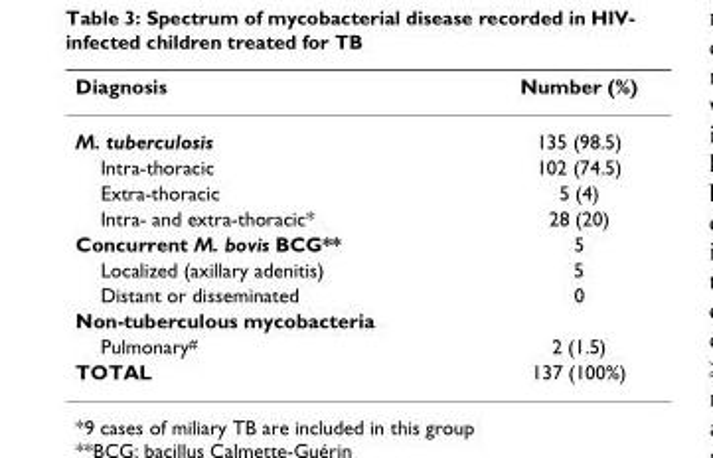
<table><thead><tr><td>Diagnosis</td><td>Number (%)</td></tr></thead><tbody><tr><td>M. tuberculosis</td><td>135 (98.5)</td></tr><tr><td>Intra-thoracic</td><td>102 (74.5)</td></tr><tr><td>Extra-thoracic</td><td>5 (4)</td></tr><tr><td>Intra- and extra-thoracic*</td><td>28 (20)</td></tr><tr><td>Concurrent M. bovis BCG**</td><td>5</td></tr><tr><td>Localized (axillary adenitis)</td><td>5</td></tr><tr><td>Distant or disseminated</td><td>0</td></tr><tr><td colspan="2">Non-tuberculous mycobacteria</td></tr><tr><td>Pulmonary<sup>#</sup></td><td>2 (1.5)</td></tr><tr><td>TOTAL</td><td>137 (100%)</td></tr></tbody></table>